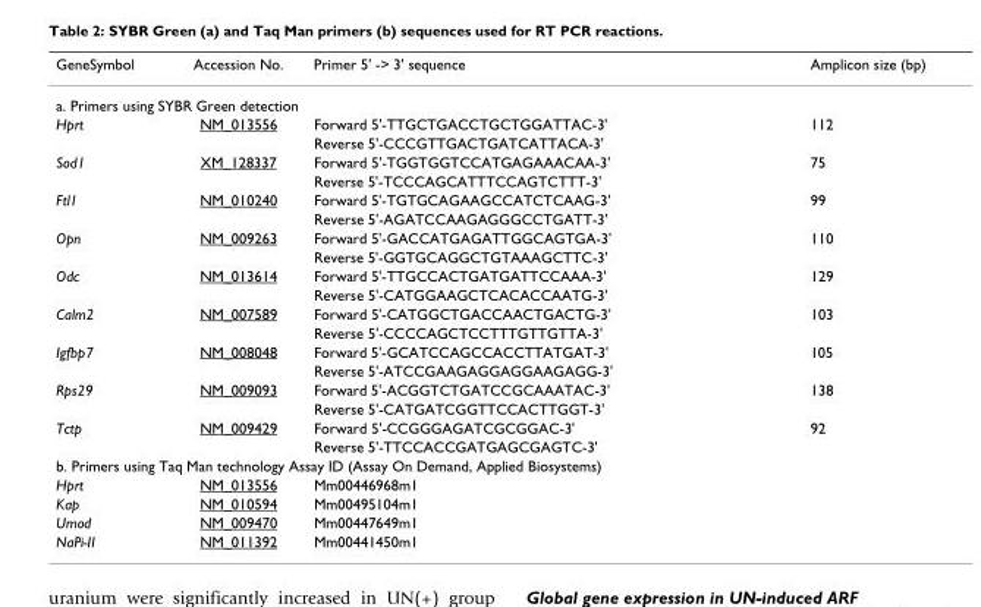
<table><thead><tr><td>GeneSymbol</td><td>Accession No.</td><td>Primer 5&#x27; -&gt; 3&#x27; sequence</td><td>Amplicon size (bp)</td></tr></thead><tbody><tr><td colspan="4">a. Primers using SYBR Green detection</td></tr><tr><td rowspan="2">Hprt</td><td>NM_013556</td><td>Forward 5&#x27;-TTGCTGACCTGCTGGATTAC-3&#x27;</td><td>112</td></tr><tr><td></td><td>Reverse 5&#x27;-CCCGTTGACTGATCATTACA-3&#x27;</td><td></td></tr><tr><td rowspan="2">Sod1</td><td>XM_128337</td><td>Forward 5&#x27;-TGGTGGTCCATGAGAAACAA-3&#x27;</td><td>75</td></tr><tr><td></td><td>Reverse 5&#x27;-TCCCAGCATTTCCAGTCTTT-3&#x27;</td><td></td></tr><tr><td rowspan="2">Ftl1</td><td>NM_010240</td><td>Forward 5&#x27;-TGTGCAGAAGCCATCTCAAG-3&#x27;</td><td>99</td></tr><tr><td></td><td>Reverse 5&#x27;-AGATCCAAGAGGGCCTGATT-3&#x27;</td><td></td></tr><tr><td rowspan="2">Opn</td><td>NM_009263</td><td>Forward 5&#x27;-GACCATGAGATTGGCAGTGA-3&#x27;</td><td>110</td></tr><tr><td></td><td>Reverse 5&#x27;-GGTGCAGGCTGTAAAGCTTC-3&#x27;</td><td></td></tr><tr><td rowspan="2">Odc</td><td>NM_013614</td><td>Forward 5&#x27;-TTGCCACTGATGATTCCAAA-3&#x27;</td><td>129</td></tr><tr><td></td><td>Reverse 5&#x27;-CATGGAAGCTCACACCAATG-3&#x27;</td><td></td></tr><tr><td rowspan="2">Calm2</td><td>NM_007589</td><td>Forward 5&#x27;-CATGGCTGACCAACTGACTG-3&#x27;</td><td>103</td></tr><tr><td></td><td>Reverse 5&#x27;-CCCCAGCTCCTTTGTTGTTA-3&#x27;</td><td></td></tr><tr><td rowspan="2">Igfbp7</td><td>NM_008048</td><td>Forward 5&#x27;-GCATCCAGCCACCTTATGAT-3&#x27;</td><td>105</td></tr><tr><td></td><td>Reverse 5&#x27;-ATCCGAAGAGGAGGAAGAGG-3&#x27;</td><td></td></tr><tr><td rowspan="2">Rps29</td><td>NM_009093</td><td>Forward 5&#x27;-ACGGTCTGATCCGCAAATAC-3&#x27;</td><td>138</td></tr><tr><td></td><td>Reverse 5&#x27;-CATGATCGGTTCCACTTGGT-3&#x27;</td><td></td></tr><tr><td rowspan="2">Tctp</td><td>NM_009429</td><td>Forward 5&#x27;-CCGGGAGATCGCGGAC-3&#x27;</td><td>92</td></tr><tr><td></td><td>Reverse 5&#x27;-TTCCACCGATGAGCGAGTC-3&#x27;</td><td></td></tr><tr><td colspan="4">b. Primers using Taq Man technology Assay ID (Assay On Demand, Applied Biosystems)</td></tr><tr><td>Hprt</td><td>NM_013556</td><td>Mm00446968m1</td><td></td></tr><tr><td>Kap</td><td>NM_010594</td><td>Mm00495104m1</td><td></td></tr><tr><td>Umod</td><td>NM_009470</td><td>Mm00447649m1</td><td></td></tr><tr><td>NaPi-II</td><td>NM_011392</td><td>Mm00441450m1</td><td></td></tr></tbody></table>